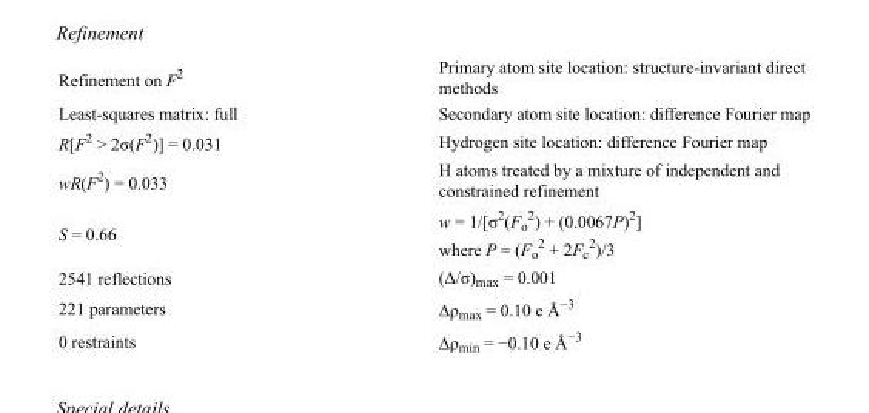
<table><tbody><tr><td>Refinement on F<sup>2</sup></td><td>Primary atom site location: structure-invariant direct methods</td></tr><tr><td>Least-squares matrix: full</td><td>Secondary atom site location: difference Fourier map</td></tr><tr><td>R[F<sup>2</sup> &gt; 2σ(F<sup>2</sup>)] = 0.031</td><td>Hydrogen site location: difference Fourier map</td></tr><tr><td>wR(F<sup>2</sup>) = 0.033</td><td>H atoms treated by a mixture of independent and constrained refinement</td></tr><tr><td>S = 0.66</td><td>w = 1/[σ<sup>2</sup>(F<sub>o</sub> <sup>2</sup>) + (0.0067P)<sup>2</sup>] where P = (F<sub>o</sub> <sup>2</sup> + 2F<sub>c</sub> <sup>2</sup>)/3</td></tr><tr><td>2541 reflections</td><td>(Δ/σ)<sub>max</sub> = 0.001</td></tr><tr><td>221 parameters</td><td>Δρ<sub>max</sub> = 0.10 e Å<sup>−3</sup></td></tr><tr><td>0 restraints</td><td>Δρ<sub>min</sub> = −0.10 e Å<sup>−3</sup></td></tr></tbody></table>